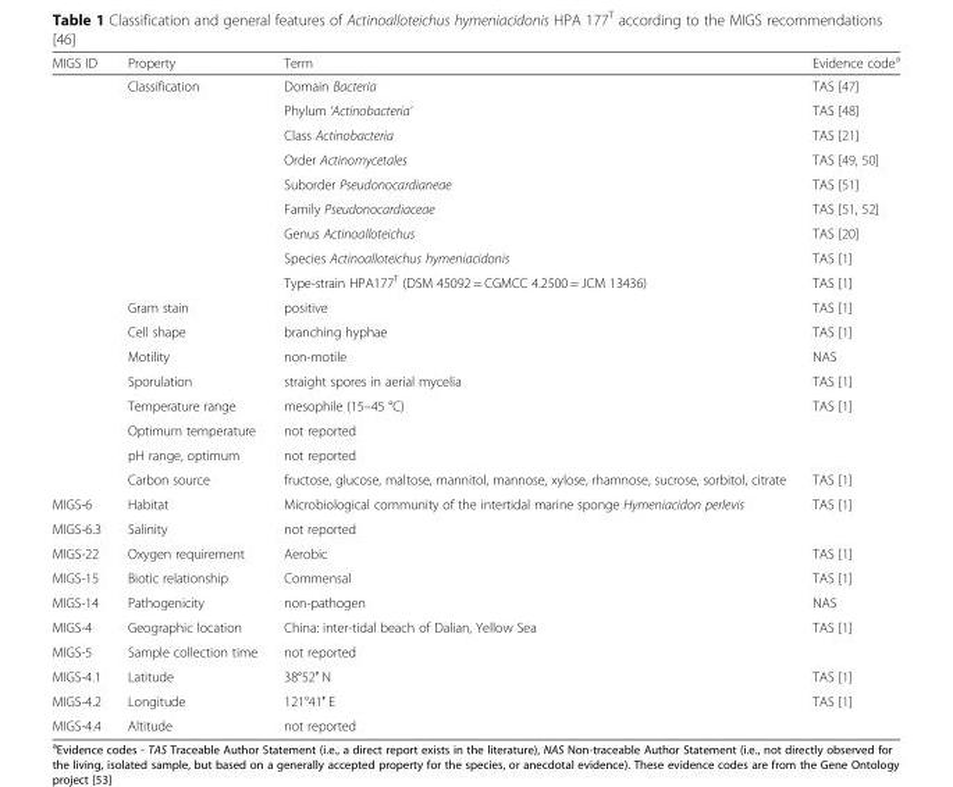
<table><thead><tr><td>MIGS ID</td><td>Property</td><td>Term</td><td>Evidence code<sup>a</sup></td></tr></thead><tbody><tr><td rowspan="9"></td><td rowspan="9">Classification</td><td>Domain Bacteria</td><td>TAS [47]</td></tr><tr><td>Phylum ‘Actinobacteria’</td><td>TAS [48]</td></tr><tr><td>Class Actinobacteria</td><td>TAS [21]</td></tr><tr><td>Order Actinomycetales</td><td>TAS [49, 50]</td></tr><tr><td>Suborder Pseudonocardianeae</td><td>TAS [51]</td></tr><tr><td>Family Pseudonocardiaceae</td><td>TAS [51, 52]</td></tr><tr><td>Genus Actinoalloteichus</td><td>TAS [20]</td></tr><tr><td>Species Actinoalloteichus hymeniacidonis</td><td>TAS [1]</td></tr><tr><td>Type-strain HPA177<sup>T</sup> (DSM 45092 = CGMCC 4.2500 = JCM 13436)</td><td>TAS [1]</td></tr><tr><td></td><td>Gram stain</td><td>positive</td><td>TAS [1]</td></tr><tr><td></td><td>Cell shape</td><td>branching hyphae</td><td>TAS [1]</td></tr><tr><td></td><td>Motility</td><td>non-motile</td><td>NAS</td></tr><tr><td></td><td>Sporulation</td><td>straight spores in aerial mycelia</td><td>TAS [1]</td></tr><tr><td></td><td>Temperature range</td><td>mesophile (15–45 °C)</td><td>TAS [1]</td></tr><tr><td></td><td>Optimum temperature</td><td>not reported</td><td></td></tr><tr><td></td><td>pH range, optimum</td><td>not reported</td><td></td></tr><tr><td></td><td>Carbon source</td><td>fructose, glucose, maltose, mannitol, mannose, xylose, rhamnose, sucrose, sorbitol, citrate</td><td>TAS [1]</td></tr><tr><td>MIGS-6</td><td>Habitat</td><td>Microbiological community of the intertidal marine sponge Hymeniacidon perlevis</td><td>TAS [1]</td></tr><tr><td>MIGS-6.3</td><td>Salinity</td><td>not reported</td><td></td></tr><tr><td>MIGS-22</td><td>Oxygen requirement</td><td>Aerobic</td><td>TAS [1]</td></tr><tr><td>MIGS-15</td><td>Biotic relationship</td><td>Commensal</td><td>TAS [1]</td></tr><tr><td>MIGS-14</td><td>Pathogenicity</td><td>non-pathogen</td><td>NAS</td></tr><tr><td>MIGS-4</td><td>Geographic location</td><td>China: inter-tidal beach of Dalian, Yellow Sea</td><td>TAS [1]</td></tr><tr><td>MIGS-5</td><td>Sample collection time</td><td>not reported</td><td></td></tr><tr><td>MIGS-4.1</td><td>Latitude</td><td>38°52′ N</td><td>TAS [1]</td></tr><tr><td>MIGS-4.2</td><td>Longitude</td><td>121°41′ E</td><td>TAS [1]</td></tr><tr><td>MIGS-4.4</td><td>Altitude</td><td>not reported</td><td></td></tr></tbody></table>